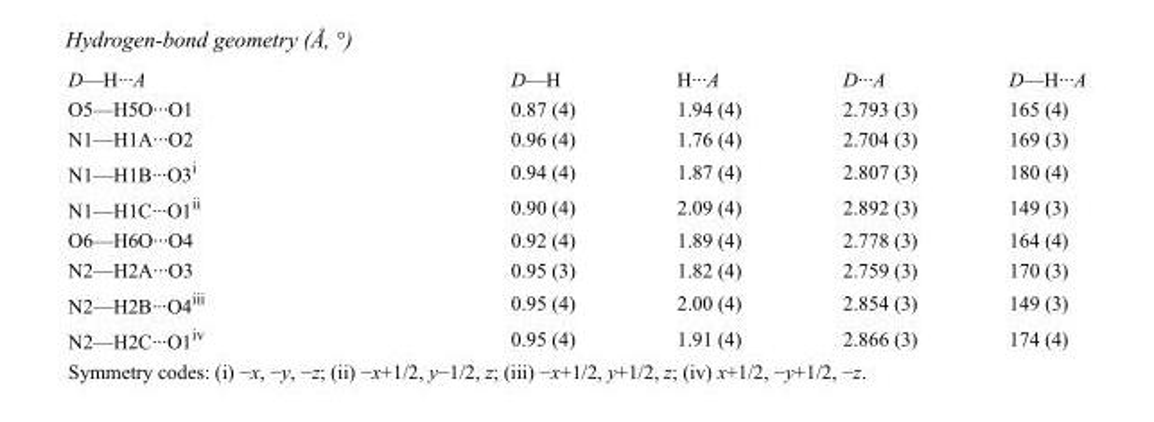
<table><tbody><tr><td>D—H···A</td><td>D—H</td><td>H···A</td><td>D···A</td><td>D—H···A</td></tr><tr><td>O5—H5O···O1</td><td>0.87 (4)</td><td>1.94 (4)</td><td>2.793 (3)</td><td>165 (4)</td></tr><tr><td>N1—H1A···O2</td><td>0.96 (4)</td><td>1.76 (4)</td><td>2.704 (3)</td><td>169 (3)</td></tr><tr><td>N1—H1B···O3<sup>i</sup></td><td>0.94 (4)</td><td>1.87 (4)</td><td>2.807 (3)</td><td>180 (4)</td></tr><tr><td>N1—H1C···O1<sup>ii</sup></td><td>0.90 (4)</td><td>2.09 (4)</td><td>2.892 (3)</td><td>149 (3)</td></tr><tr><td>O6—H6O···O4</td><td>0.92 (4)</td><td>1.89 (4)</td><td>2.778 (3)</td><td>164 (4)</td></tr><tr><td>N2—H2A···O3</td><td>0.95 (3)</td><td>1.82 (4)</td><td>2.759 (3)</td><td>170 (3)</td></tr><tr><td>N2—H2B···O4<sup>iii</sup></td><td>0.95 (4)</td><td>2.00 (4)</td><td>2.854 (3)</td><td>149 (3)</td></tr><tr><td>N2—H2C···O1<sup>iv</sup></td><td>0.95 (4)</td><td>1.91 (4)</td><td>2.866 (3)</td><td>174 (4)</td></tr></tbody></table>